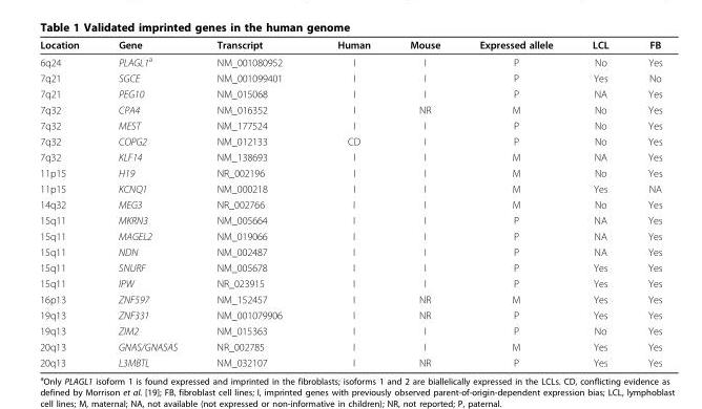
<table><thead><tr><td>Location</td><td>Gene</td><td>Transcript</td><td>Human</td><td>Mouse</td><td>Expressed allele</td><td>LCL</td><td>FB</td></tr></thead><tbody><tr><td>6q24</td><td>PLAGL1<sup>a</sup></td><td>NM_001080952</td><td>I</td><td>I</td><td>P</td><td>No</td><td>Yes</td></tr><tr><td>7q21</td><td>SGCE</td><td>NM_001099401</td><td>I</td><td>I</td><td>P</td><td>Yes</td><td>No</td></tr><tr><td>7q21</td><td>PEG10</td><td>NM_015068</td><td>I</td><td>I</td><td>P</td><td>NA</td><td>Yes</td></tr><tr><td>7q32</td><td>CPA4</td><td>NM_016352</td><td>I</td><td>NR</td><td>M</td><td>No</td><td>Yes</td></tr><tr><td>7q32</td><td>MEST</td><td>NM_177524</td><td>I</td><td>I</td><td>P</td><td>No</td><td>Yes</td></tr><tr><td>7q32</td><td>COPG2</td><td>NM_012133</td><td>CD</td><td>I</td><td>P</td><td>No</td><td>Yes</td></tr><tr><td>7q32</td><td>KLF14</td><td>NM_138693</td><td>I</td><td>I</td><td>M</td><td>NA</td><td>Yes</td></tr><tr><td>11p15</td><td>H19</td><td>NR_002196</td><td>I</td><td>I</td><td>M</td><td>No</td><td>Yes</td></tr><tr><td>11p15</td><td>KCNQ1</td><td>NM_000218</td><td>I</td><td>I</td><td>M</td><td>Yes</td><td>NA</td></tr><tr><td>14q32</td><td>MEG3</td><td>NR_002766</td><td>I</td><td>I</td><td>M</td><td>No</td><td>Yes</td></tr><tr><td>15q11</td><td>MKRN3</td><td>NM_005664</td><td>I</td><td>I</td><td>P</td><td>NA</td><td>Yes</td></tr><tr><td>15q11</td><td>MAGEL2</td><td>NM_019066</td><td>I</td><td>I</td><td>P</td><td>NA</td><td>Yes</td></tr><tr><td>15q11</td><td>NDN</td><td>NM_002487</td><td>I</td><td>I</td><td>P</td><td>NA</td><td>Yes</td></tr><tr><td>15q11</td><td>SNURF</td><td>NM_005678</td><td>I</td><td>I</td><td>P</td><td>Yes</td><td>Yes</td></tr><tr><td>15q11</td><td>IPW</td><td>NR_023915</td><td>I</td><td>I</td><td>P</td><td>Yes</td><td>Yes</td></tr><tr><td>16p13</td><td>ZNF597</td><td>NM_152457</td><td>I</td><td>NR</td><td>M</td><td>Yes</td><td>Yes</td></tr><tr><td>19q13</td><td>ZNF331</td><td>NM_001079906</td><td>I</td><td>NR</td><td>P</td><td>Yes</td><td>Yes</td></tr><tr><td>19q13</td><td>ZIM2</td><td>NM_015363</td><td>I</td><td>I</td><td>P</td><td>No</td><td>Yes</td></tr><tr><td>20q13</td><td>GNAS/GNASAS</td><td>NR_002785</td><td>I</td><td>I</td><td>M</td><td>Yes</td><td>Yes</td></tr><tr><td>20q13</td><td>L3MBTL</td><td>NM_032107</td><td>I</td><td>NR</td><td>P</td><td>Yes</td><td>Yes</td></tr></tbody></table>